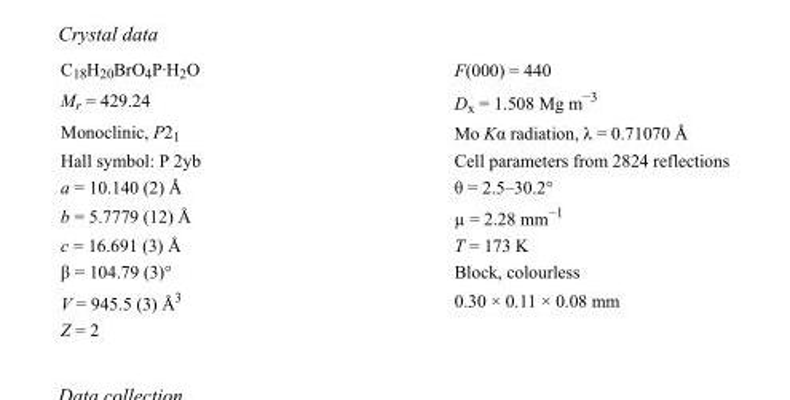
<table><tbody><tr><td>C<sub>18</sub>H<sub>20</sub>BrO<sub>4</sub>P·H<sub>2</sub>O</td><td>F(000) = 440</td></tr><tr><td>M<sub>r</sub> = 429.24</td><td>D<sub>x</sub> = 1.508 Mg m<sup>−3</sup></td></tr><tr><td>Monoclinic, P2<sub>1</sub></td><td>Mo Kα radiation, λ = 0.71070 Å</td></tr><tr><td>Hall symbol: P 2yb</td><td>Cell parameters from 2824 reflections</td></tr><tr><td>a = 10.140 (2) Å</td><td>θ = 2.5–30.2°</td></tr><tr><td>b = 5.7779 (12) Å</td><td>µ = 2.28 mm<sup>−1</sup></td></tr><tr><td>c = 16.691 (3) Å</td><td>T = 173 K</td></tr><tr><td>β = 104.79 (3)°</td><td>Block, colourless</td></tr><tr><td>V = 945.5 (3) Å<sup>3</sup></td><td>0.30 × 0.11 × 0.08 mm</td></tr><tr><td>Z = 2</td><td></td></tr></tbody></table>